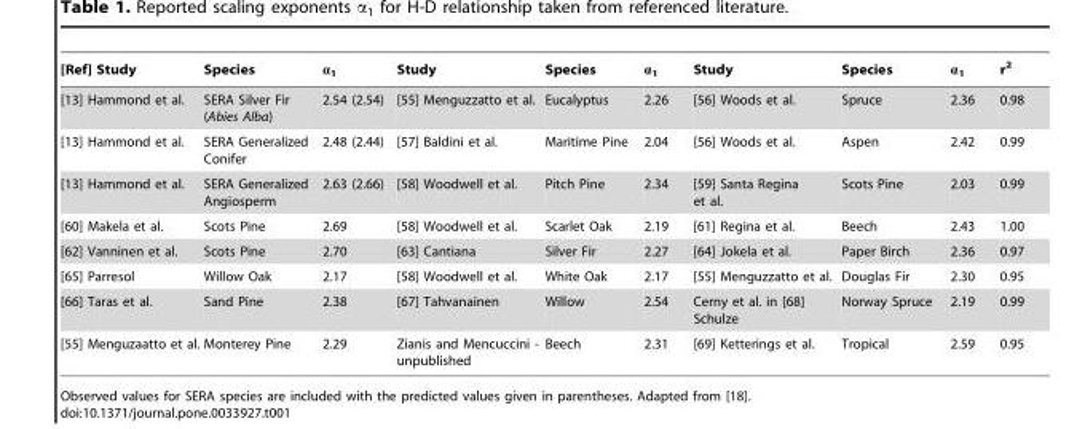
<table><thead><tr><td>[Ref] Study</td><td>Species</td><td>α<sub>1</sub></td><td>Study</td><td>Species</td><td>α<sub>1</sub></td><td>Study</td><td>Species</td><td>α<sub>1</sub></td><td>r<sup>2</sup></td></tr></thead><tbody><tr><td>[13] Hammond et al.</td><td>SERA Silver Fir (Abies Alba)</td><td>2.54 (2.54)</td><td>[55] Menguzzatto et al.</td><td>Eucalyptus</td><td>2.26</td><td>[56] Woods et al.</td><td>Spruce</td><td>2.36</td><td>0.98</td></tr><tr><td>[13] Hammond et al.</td><td>SERA Generalized Conifer</td><td>2.48 (2.44)</td><td>[57] Baldini et al.</td><td>Maritime Pine</td><td>2.04</td><td>[56] Woods et al.</td><td>Aspen</td><td>2.42</td><td>0.99</td></tr><tr><td>[13] Hammond et al.</td><td>SERA Generalized Angiosperm</td><td>2.63 (2.66)</td><td>[58] Woodwell et al.</td><td>Pitch Pine</td><td>2.34</td><td>[59] Santa Regina et al.</td><td>Scots Pine</td><td>2.03</td><td>0.99</td></tr><tr><td>[60] Makela et al.</td><td>Scots Pine</td><td>2.69</td><td>[58] Woodwell et al.</td><td>Scarlet Oak</td><td>2.19</td><td>[61] Regina et al.</td><td>Beech</td><td>2.43</td><td>1.00</td></tr><tr><td>[62] Vanninen et al.</td><td>Scots Pine</td><td>2.70</td><td>[63] Cantiana</td><td>Silver Fir</td><td>2.27</td><td>[64] Jokela et al.</td><td>Paper Birch</td><td>2.36</td><td>0.97</td></tr><tr><td>[65] Parresol</td><td>Willow Oak</td><td>2.17</td><td>[58] Woodwell et al.</td><td>White Oak</td><td>2.17</td><td>[55] Menguzzatto et al.</td><td>Douglas Fir</td><td>2.30</td><td>0.95</td></tr><tr><td>[66] Taras et al.</td><td>Sand Pine</td><td>2.38</td><td>[67] Tahvanainen</td><td>Willow</td><td>2.54</td><td>Cerny et al. in [68] Schulze</td><td>Norway Spruce</td><td>2.19</td><td>0.99</td></tr><tr><td>[55] Menguzaatto et al.</td><td>Monterey Pine</td><td>2.29</td><td>Zianis and Mencuccini - unpublished</td><td>Beech</td><td>2.31</td><td>[69] Ketterings et al.</td><td>Tropical</td><td>2.59</td><td>0.95</td></tr></tbody></table>